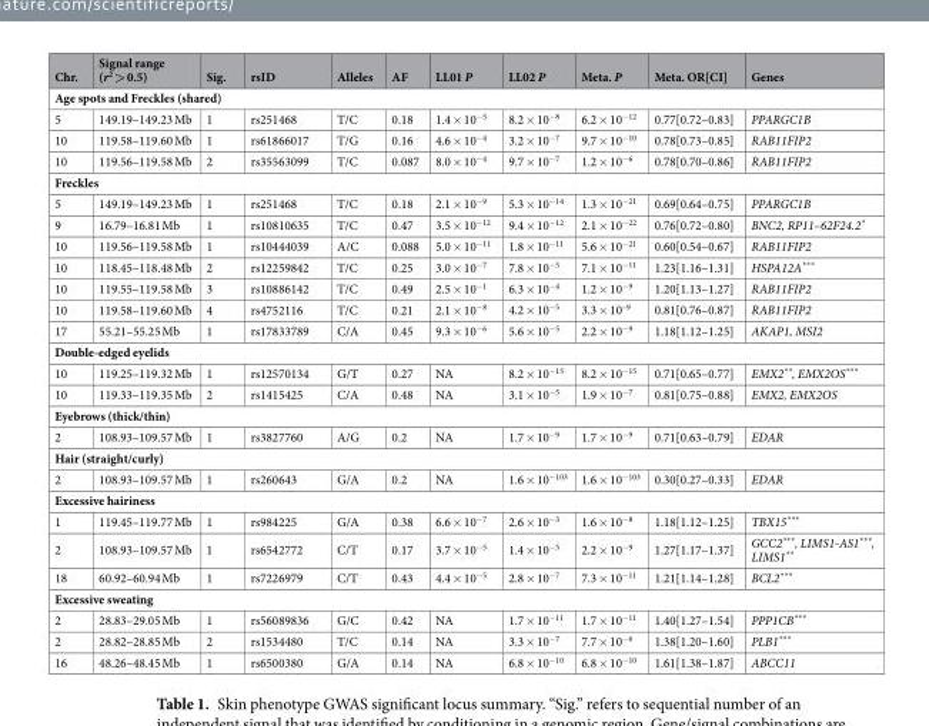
<table><thead><tr><td>Chr.</td><td>Signal range (r<sup>2</sup> &gt; 0.5)</td><td>Sig.</td><td>rsID</td><td>Alleles</td><td>AF</td><td>LL01 P</td><td>LL02 P</td><td>Meta. P</td><td>Meta. OR[CI]</td><td>Genes</td></tr></thead><tbody><tr><td colspan="11">Age spots and Freckles (shared)</td></tr><tr><td>5</td><td>149.19–149.23 Mb</td><td>1</td><td>rs251468</td><td>T/C</td><td>0.18</td><td>1.4 × 10<sup>−5</sup></td><td>8.2 × 10<sup>−8</sup></td><td>6.2 × 10<sup>−12</sup></td><td>0.77[0.72–0.83]</td><td>PPARGC1B</td></tr><tr><td>10</td><td>119.58–119.60 Mb</td><td>1</td><td>rs61866017</td><td>T/G</td><td>0.16</td><td>4.6 × 10<sup>−4</sup></td><td>3.2 × 10<sup>−7</sup></td><td>9.7 × 10<sup>−10</sup></td><td>0.78[0.73–0.85]</td><td>RAB11FIP2</td></tr><tr><td>10</td><td>119.56–119.58 Mb</td><td>2</td><td>rs35563099</td><td>T/C</td><td>0.087</td><td>8.0 × 10<sup>−4</sup></td><td>9.7 × 10<sup>−7</sup></td><td>1.2 × 10<sup>−6</sup></td><td>0.78[0.70–0.86]</td><td>RAB11FIP2</td></tr><tr><td colspan="11">Freckles</td></tr><tr><td>5</td><td>149.19–149.23 Mb</td><td>1</td><td>rs251468</td><td>T/C</td><td>0.18</td><td>2.1 × 10<sup>−9</sup></td><td>5.3 × 10<sup>−14</sup></td><td>1.3 × 10<sup>−21</sup></td><td>0.69[0.64–0.75]</td><td>PPARGC1B</td></tr><tr><td>9</td><td>16.79–16.81 Mb</td><td>1</td><td>rs10810635</td><td>T/C</td><td>0.47</td><td>3.5 × 10<sup>−12</sup></td><td>9.4 × 10<sup>−12</sup></td><td>2.1 × 10<sup>−22</sup></td><td>0.76[0.72–0.80]</td><td>BNC2, RP11–62F24.2*</td></tr><tr><td>10</td><td>119.56–119.58 Mb</td><td>1</td><td>rs10444039</td><td>A/C</td><td>0.088</td><td>5.0 × 10<sup>−11</sup></td><td>1.8 × 10<sup>−11</sup></td><td>5.6 × 10<sup>−21</sup></td><td>0.60[0.54–0.67]</td><td>RAB11FIP2</td></tr><tr><td>10</td><td>118.45–118.48 Mb</td><td>2</td><td>rs12259842</td><td>T/C</td><td>0.25</td><td>3.0 × 10<sup>−7</sup></td><td>7.8 × 10<sup>−5</sup></td><td>7.1 × 10<sup>−11</sup></td><td>1.23[1.16–1.31]</td><td>HSPA12A***</td></tr><tr><td>10</td><td>119.55–119.58 Mb</td><td>3</td><td>rs10886142</td><td>T/C</td><td>0.49</td><td>2.5 × 10<sup>−1</sup></td><td>6.3 × 10<sup>−4</sup></td><td>1.2 × 10<sup>−9</sup></td><td>1.20[1.13–1.27]</td><td>RAB11FIP2</td></tr><tr><td>10</td><td>119.58–119.60 Mb</td><td>4</td><td>rs4752116</td><td>T/C</td><td>0.21</td><td>2.1 × 10<sup>−8</sup></td><td>4.2 × 10<sup>−5</sup></td><td>3.3 × 10<sup>–9</sup></td><td>0.81[0.76–0.87]</td><td>RAB11FIP2</td></tr><tr><td>17</td><td>55.21–55.25 Mb</td><td>1</td><td>rs17833789</td><td>C/A</td><td>0.45</td><td>9.3 × 10<sup>−6</sup></td><td>5.6 × 10<sup>−5</sup></td><td>2.2 × 10<sup>−9</sup></td><td>1.18[1.12–1.25]</td><td>AKAP1, MSI2</td></tr><tr><td colspan="11">Double-edged eyelids</td></tr><tr><td>10</td><td>119.25–119.32 Mb</td><td>1</td><td>rs12570134</td><td>G/T</td><td>0.27</td><td>NA</td><td>8.2 × 10<sup>−15</sup></td><td>8.2 × 10<sup>−15</sup></td><td>0.71[0.65–0.77]</td><td>EMX2**, EMX2OS***</td></tr><tr><td>10</td><td>119.33–119.35 Mb</td><td>2</td><td>rs1415425</td><td>C/A</td><td>0.48</td><td>NA</td><td>3.1 × 10<sup>−5</sup></td><td>1.9 × 10<sup>−7</sup></td><td>0.81[0.75–0.88]</td><td>EMX2, EMX2OS</td></tr><tr><td colspan="11">Eyebrows (thick/thin)</td></tr><tr><td>2</td><td>108.93–109.57 Mb</td><td>1</td><td>rs3827760</td><td>A/G</td><td>0.2</td><td>NA</td><td>1.7 × 10<sup>−9</sup></td><td>1.7 × 10<sup>−9</sup></td><td>0.71[0.63–0.79]</td><td>EDAR</td></tr><tr><td colspan="11">Hair (straight/curly)</td></tr><tr><td>2</td><td>108.93–109.57 Mb</td><td>1</td><td>rs260643</td><td>G/A</td><td>0.2</td><td>NA</td><td>1.6 × 10<sup>−103</sup></td><td>1.6 × 10<sup>−103</sup></td><td>0.30[0.27–0.33]</td><td>EDAR</td></tr><tr><td colspan="11">Excessive hairiness</td></tr><tr><td>1</td><td>119.45–119.77 Mb</td><td>1</td><td>rs984225</td><td>G/A</td><td>0.38</td><td>6.6 × 10<sup>−7</sup></td><td>2.6 × 10<sup>−3</sup></td><td>1.6 × 10<sup>−8</sup></td><td>1.18[1.12–1.25]</td><td>TBX15***</td></tr><tr><td>2</td><td>108.93–109.57 Mb</td><td>1</td><td>rs6542772</td><td>C/T</td><td>0.17</td><td>3.7 × 10<sup>−5</sup></td><td>1.4 × 10<sup>−5</sup></td><td>2.2 × 10<sup>−9</sup></td><td>1.27[1.17–1.37]</td><td>GCC2***, LIMS1-AS1***, LIMS1**</td></tr><tr><td>18</td><td>60.92–60.94 Mb</td><td>1</td><td>rs7226979</td><td>C/T</td><td>0.43</td><td>4.4 × 10<sup>−5</sup></td><td>2.8 × 10<sup>−7</sup></td><td>7.3 × 10<sup>−11</sup></td><td>1.21[1.14–1.28]</td><td>BCL2***</td></tr><tr><td colspan="11">Excessive sweating</td></tr><tr><td>2</td><td>28.83–29.05 Mb</td><td>1</td><td>rs56089836</td><td>G/C</td><td>0.42</td><td>NA</td><td>1.7 × 10<sup>−11</sup></td><td>1.7 × 10<sup>−11</sup></td><td>1.40[1.27–1.54]</td><td>PPP1CB***</td></tr><tr><td>2</td><td>28.82–28.85 Mb</td><td>2</td><td>rs1534480</td><td>T/C</td><td>0.14</td><td>NA</td><td>3.3 × 10<sup>−7</sup></td><td>7.7 × 10<sup>−6</sup></td><td>1.38[1.20–1.60]</td><td>PLB1***</td></tr><tr><td>16</td><td>48.26–48.45 Mb</td><td>1</td><td>rs6500380</td><td>G/A</td><td>0.14</td><td>NA</td><td>6.8 × 10<sup>−10</sup></td><td>6.8 × 10<sup>−10</sup></td><td>1.61[1.38–1.87]</td><td>ABCC11</td></tr></tbody></table>